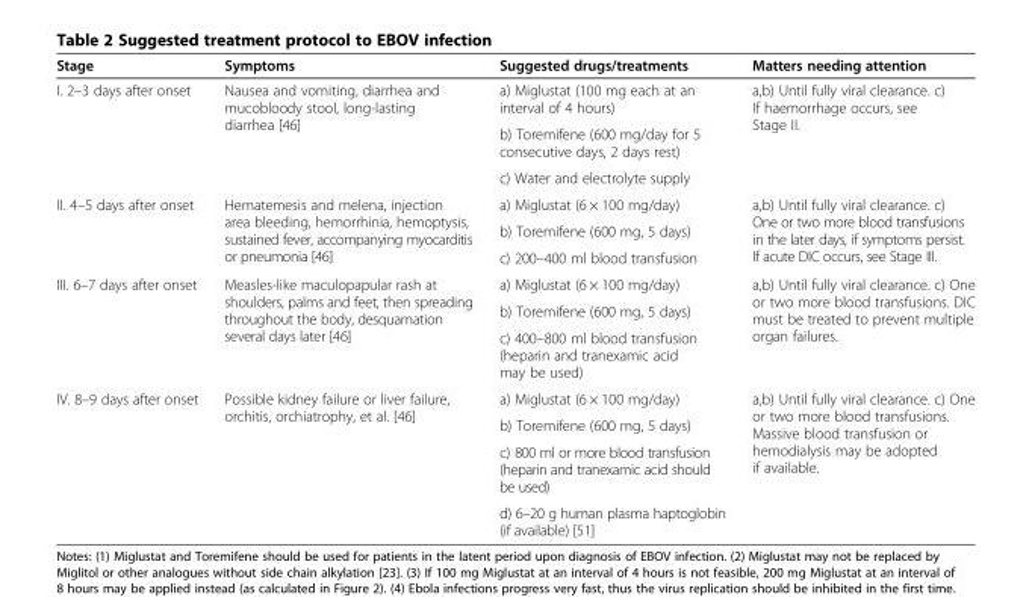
<table><thead><tr><td>Stage</td><td>Symptoms</td><td>Suggested drugs/treatments</td><td>Matters needing attention</td></tr></thead><tbody><tr><td rowspan="3">I. 2–3 days after onset</td><td rowspan="3">Nausea and vomiting, diarrhea and mucobloody stool, long-lasting diarrhea [46]</td><td>a) Miglustat (100 mg each at an interval of 4 hours)</td><td rowspan="3">a,b) Until fully viral clearance. c) If haemorrhage occurs, see Stage II.</td></tr><tr><td>b) Toremifene (600 mg/day for 5 consecutive days, 2 days rest)</td></tr><tr><td>c) Water and electrolyte supply</td></tr><tr><td rowspan="3">II. 4–5 days after onset</td><td rowspan="3">Hematemesis and melena, injection area bleeding, hemorrhinia, hemoptysis, sustained fever, accompanying myocarditis or pneumonia [46]</td><td>a) Miglustat (6 × 100 mg/day)</td><td rowspan="3">a,b) Until fully viral clearance. c) One or two more blood transfusions in the later days, if symptoms persist. If acute DIC occurs, see Stage III.</td></tr><tr><td>b) Toremifene (600 mg, 5 days)</td></tr><tr><td>c) 200–400 ml blood transfusion</td></tr><tr><td rowspan="3">III. 6–7 days after onset</td><td rowspan="3">Measles-like maculopapular rash at shoulders, palms and feet, then spreading throughout the body, desquamation several days later [46]</td><td>a) Miglustat (6 × 100 mg/day)</td><td rowspan="3">a,b) Until fully viral clearance. c) One or two more blood transfusions. DIC must be treated to prevent multiple organ failures.</td></tr><tr><td>b) Toremifene (600 mg, 5 days)</td></tr><tr><td>c) 400–800 ml blood transfusion (heparin and tranexamic acid may be used)</td></tr><tr><td rowspan="4">IV. 8–9 days after onset</td><td rowspan="4">Possible kidney failure or liver failure, orchitis, orchiatrophy, et al. [46]</td><td>a) Miglustat (6 × 100 mg/day)</td><td rowspan="4">a,b) Until fully viral clearance. c) One or two more blood transfusions. Massive blood transfusion or hemodialysis may be adopted if available.</td></tr><tr><td>b) Toremifene (600 mg, 5 days)</td></tr><tr><td>c) 800 ml or more blood transfusion (heparin and tranexamic acid should be used)</td></tr><tr><td>d) 6–20 g human plasma haptoglobin (if available) [51]</td></tr></tbody></table>